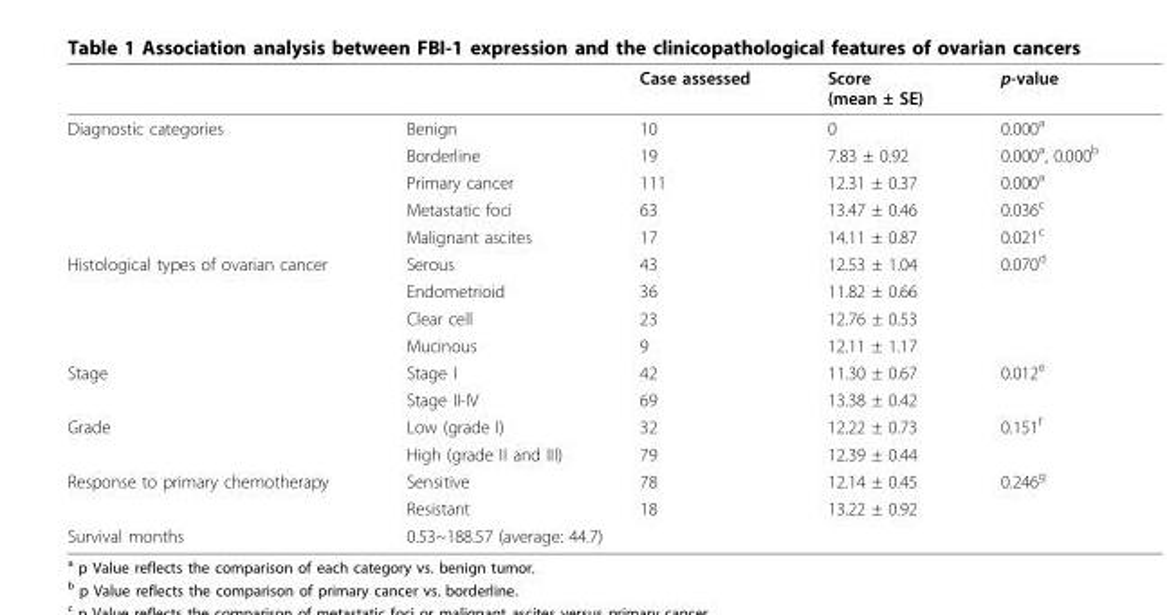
<table><thead><tr><td></td><td></td><td>Case assessed</td><td>Score (mean ± SE)</td><td>p-value</td></tr></thead><tbody><tr><td rowspan="5">Diagnostic categories</td><td>Benign</td><td>10</td><td>0</td><td>0.000<sup>a</sup></td></tr><tr><td>Borderline</td><td>19</td><td>7.83 ± 0.92</td><td>0.000<sup>a</sup>, 0.000<sup>b</sup></td></tr><tr><td>Primary cancer</td><td>111</td><td>12.31 ± 0.37</td><td>0.000<sup>a</sup></td></tr><tr><td>Metastatic foci</td><td>63</td><td>13.47 ± 0.46</td><td>0.036<sup>c</sup></td></tr><tr><td>Malignant ascites</td><td>17</td><td>14.11 ± 0.87</td><td>0.021<sup>c</sup></td></tr><tr><td rowspan="4">Histological types of ovarian cancer</td><td>Serous</td><td>43</td><td>12.53 ± 1.04</td><td>0.070<sup>d</sup></td></tr><tr><td>Endometrioid</td><td>36</td><td>11.82 ± 0.66</td><td></td></tr><tr><td>Clear cell</td><td>23</td><td>12.76 ± 0.53</td><td></td></tr><tr><td>Mucinous</td><td>9</td><td>12.11 ± 1.17</td><td></td></tr><tr><td rowspan="2">Stage</td><td>Stage I</td><td>42</td><td>11.30 ± 0.67</td><td>0.012<sup>e</sup></td></tr><tr><td>Stage II-IV</td><td>69</td><td>13.38 ± 0.42</td><td></td></tr><tr><td rowspan="2">Grade</td><td>Low (grade I)</td><td>32</td><td>12.22 ± 0.73</td><td>0.151<sup>f</sup></td></tr><tr><td>High (grade II and III)</td><td>79</td><td>12.39 ± 0.44</td><td></td></tr><tr><td rowspan="2">Response to primary chemotherapy</td><td>Sensitive</td><td>78</td><td>12.14 ± 0.45</td><td>0.246<sup>g</sup></td></tr><tr><td>Resistant</td><td>18</td><td>13.22 ± 0.92</td><td></td></tr><tr><td>Survival months</td><td colspan="4">0.53~188.57 (average: 44.7)</td></tr></tbody></table>